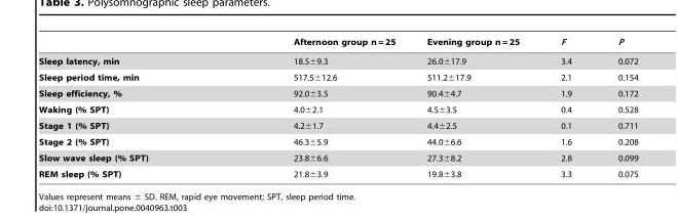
<table><thead><tr><td></td><td>Afternoon group n = 25</td><td>Evening group n = 25</td><td>F</td><td>P</td></tr></thead><tbody><tr><td>Sleep latency, min</td><td>18.5±9.3</td><td>26.0±17.9</td><td>3.4</td><td>0.072</td></tr><tr><td>Sleep period time, min</td><td>517.5±12.6</td><td>511.2±17.9</td><td>2.1</td><td>0.154</td></tr><tr><td>Sleep efficiency, %</td><td>92.0±3.5</td><td>90.4±4.7</td><td>1.9</td><td>0.172</td></tr><tr><td>Waking (% SPT)</td><td>4.0±2.1</td><td>4.5±3.5</td><td>0.4</td><td>0.528</td></tr><tr><td>Stage 1 (% SPT)</td><td>4.2±1.7</td><td>4.4±2.5</td><td>0.1</td><td>0.711</td></tr><tr><td>Stage 2 (% SPT)</td><td>46.3±5.9</td><td>44.0±6.6</td><td>1.6</td><td>0.208</td></tr><tr><td>Slow wave sleep (% SPT)</td><td>23.8±6.6</td><td>27.3±8.2</td><td>2.8</td><td>0.099</td></tr><tr><td>REM sleep (% SPT)</td><td>21.8±3.9</td><td>19.8±3.8</td><td>3.3</td><td>0.075</td></tr></tbody></table>